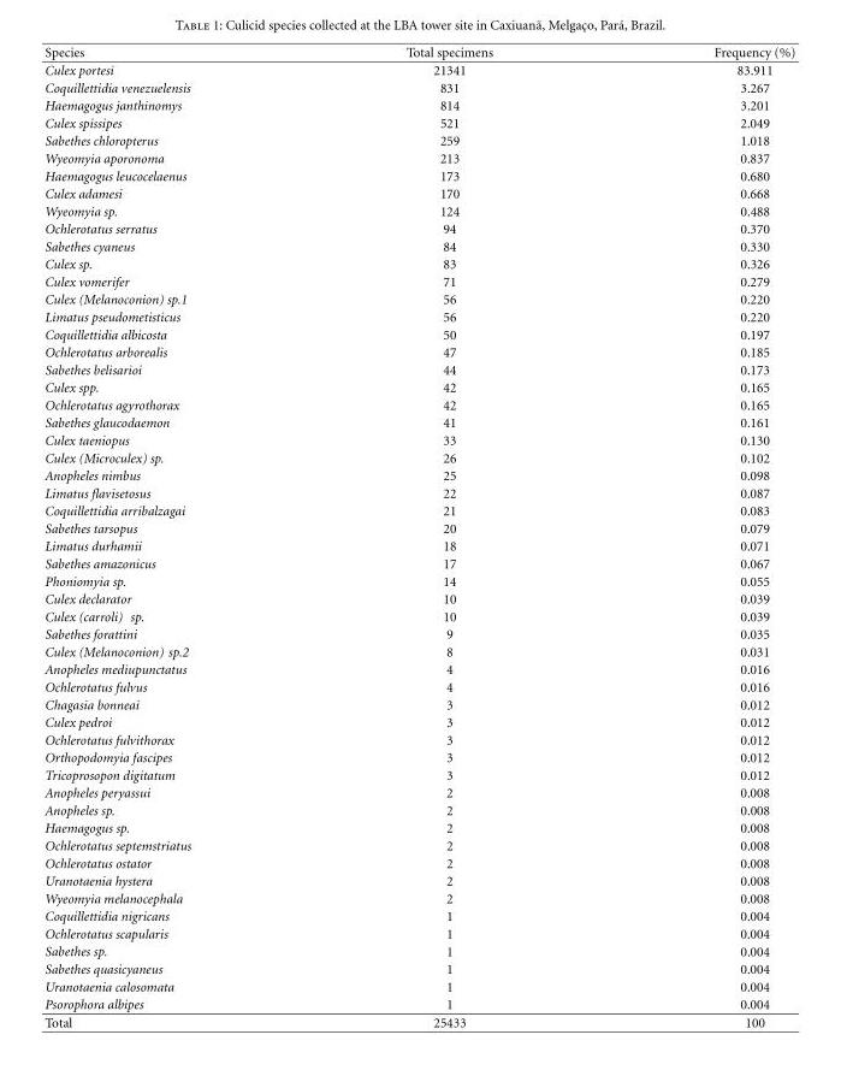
<table><thead><tr><td>Species</td><td>Total specimens</td><td>Frequency (%)</td></tr></thead><tbody><tr><td>Culex portesi</td><td>21341</td><td>83.911</td></tr><tr><td>Coquillettidia venezuelensis</td><td>831</td><td>3.267</td></tr><tr><td>Haemagogus janthinomys</td><td>814</td><td>3.201</td></tr><tr><td>Culex spissipes</td><td>521</td><td>2.049</td></tr><tr><td>Sabethes chloropterus</td><td>259</td><td>1.018</td></tr><tr><td>Wyeomyia aporonoma</td><td>213</td><td>0.837</td></tr><tr><td>Haemagogus leucocelaenus</td><td>173</td><td>0.680</td></tr><tr><td>Culex adamesi</td><td>170</td><td>0.668</td></tr><tr><td>Wyeomyia sp.</td><td>124</td><td>0.488</td></tr><tr><td>Ochlerotatus serratus</td><td>94</td><td>0.370</td></tr><tr><td>Sabethes cyaneus</td><td>84</td><td>0.330</td></tr><tr><td>Culex sp.</td><td>83</td><td>0.326</td></tr><tr><td>Culex vomerifer</td><td>71</td><td>0.279</td></tr><tr><td>Culex (Melanoconion) sp.1</td><td>56</td><td>0.220</td></tr><tr><td>Limatus pseudometisticus</td><td>56</td><td>0.220</td></tr><tr><td>Coquillettidia albicosta</td><td>50</td><td>0.197</td></tr><tr><td>Ochlerotatus arborealis</td><td>47</td><td>0.185</td></tr><tr><td>Sabethes belisarioi</td><td>44</td><td>0.173</td></tr><tr><td>Culex spp.</td><td>42</td><td>0.165</td></tr><tr><td>Ochlerotatus agyrothorax</td><td>42</td><td>0.165</td></tr><tr><td>Sabethes glaucodaemon</td><td>41</td><td>0.161</td></tr><tr><td>Culex taeniopus</td><td>33</td><td>0.130</td></tr><tr><td>Culex (Microculex) sp.</td><td>26</td><td>0.102</td></tr><tr><td>Anopheles nimbus</td><td>25</td><td>0.098</td></tr><tr><td>Limatus flavisetosus</td><td>22</td><td>0.087</td></tr><tr><td>Coquillettidia arribalzagai</td><td>21</td><td>0.083</td></tr><tr><td>Sabethes tarsopus</td><td>20</td><td>0.079</td></tr><tr><td>Limatus durhamii</td><td>18</td><td>0.071</td></tr><tr><td>Sabethes amazonicus</td><td>17</td><td>0.067</td></tr><tr><td>Phoniomyia sp.</td><td>14</td><td>0.055</td></tr><tr><td>Culex declarator</td><td>10</td><td>0.039</td></tr><tr><td>Culex (carroli) sp.</td><td>10</td><td>0.039</td></tr><tr><td>Sabethes forattini</td><td>9</td><td>0.035</td></tr><tr><td>Culex (Melanoconion) sp.2</td><td>8</td><td>0.031</td></tr><tr><td>Anopheles mediupunctatus</td><td>4</td><td>0.016</td></tr><tr><td>Ochlerotatus fulvus</td><td>4</td><td>0.016</td></tr><tr><td>Chagasia bonneai</td><td>3</td><td>0.012</td></tr><tr><td>Culex pedroi</td><td>3</td><td>0.012</td></tr><tr><td>Ochlerotatus fulvithorax</td><td>3</td><td>0.012</td></tr><tr><td>Orthopodomyia fascipes</td><td>3</td><td>0.012</td></tr><tr><td>Tricoprosopon digitatum</td><td>3</td><td>0.012</td></tr><tr><td>Anopheles peryassui</td><td>2</td><td>0.008</td></tr><tr><td>Anopheles sp.</td><td>2</td><td>0.008</td></tr><tr><td>Haemagogus sp.</td><td>2</td><td>0.008</td></tr><tr><td>Ochlerotatus septemstriatus</td><td>2</td><td>0.008</td></tr><tr><td>Ochlerotatus ostator</td><td>2</td><td>0.008</td></tr><tr><td>Uranotaenia hystera</td><td>2</td><td>0.008</td></tr><tr><td>Wyeomyia melanocephala</td><td>2</td><td>0.008</td></tr><tr><td>Coquillettidia nigricans</td><td>1</td><td>0.004</td></tr><tr><td>Ochlerotatus scapularis</td><td>1</td><td>0.004</td></tr><tr><td>Sabethes sp.</td><td>1</td><td>0.004</td></tr><tr><td>Sabethes quasicyaneus</td><td>1</td><td>0.004</td></tr><tr><td>Uranotaenia calosomata</td><td>1</td><td>0.004</td></tr><tr><td>Psorophora albipes</td><td>1</td><td>0.004</td></tr><tr><td>Total</td><td>25433</td><td>100</td></tr></tbody></table>